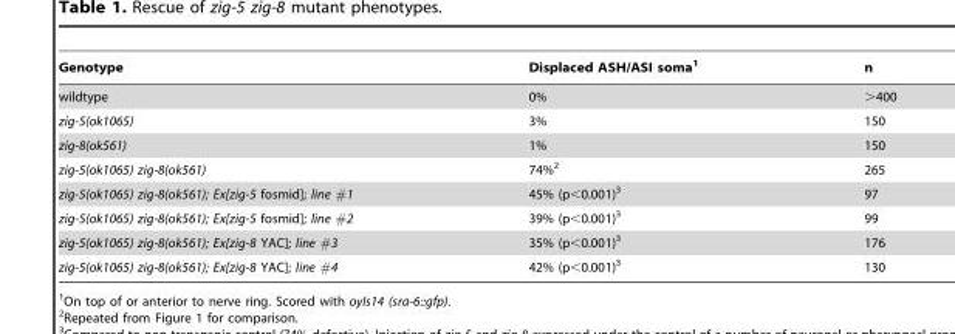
<table><thead><tr><td>Genotype</td><td>Displaced ASH/ASI soma<sup>1</sup></td><td>n</td></tr></thead><tbody><tr><td>wildtype</td><td>0%</td><td>&gt;400</td></tr><tr><td>zig-5(ok1065)</td><td>3%</td><td>150</td></tr><tr><td>zig-8(ok561)</td><td>1%</td><td>150</td></tr><tr><td>zig-5(ok1065) zig-8(ok561)</td><td>74%<sup>2</sup></td><td>265</td></tr><tr><td>zig-5(ok1065) zig-8(ok561); Ex[zig-5 fosmid]; line #1</td><td>45% (p&lt;0.001)<sup>3</sup></td><td>97</td></tr><tr><td>zig-5(ok1065) zig-8(ok561); Ex[zig-5 fosmid]; line #2</td><td>39% (p&lt;0.001)<sup>3</sup></td><td>99</td></tr><tr><td>zig-5(ok1065) zig-8(ok561); Ex[zig-8 YAC]; line #3</td><td>35% (p&lt;0.001)<sup>3</sup></td><td>176</td></tr><tr><td>zig-5(ok1065) zig-8(ok561); Ex[zig-8 YAC]; line #4</td><td>42% (p&lt;0.001)<sup>3</sup></td><td>130</td></tr></tbody></table>